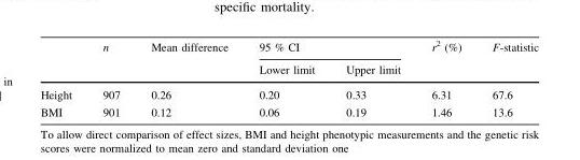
<table><thead><tr><td rowspan="2"></td><td rowspan="2">n</td><td rowspan="2">Mean difference</td><td colspan="2">95 % CI</td><td rowspan="2">r<sup>2</sup> (%)</td><td rowspan="2">F-statistic</td></tr><tr><td>Lower limit</td><td>Upper limit</td></tr></thead><tbody><tr><td>Height</td><td>907</td><td>0.26</td><td>0.20</td><td>0.33</td><td>6.31</td><td>67.6</td></tr><tr><td>BMI</td><td>901</td><td>0.12</td><td>0.06</td><td>0.19</td><td>1.46</td><td>13.6</td></tr></tbody></table>